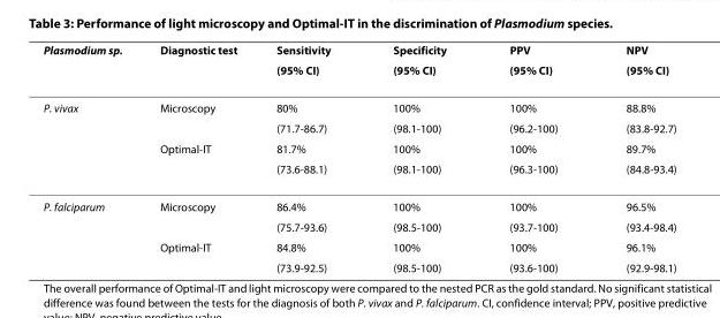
<table><thead><tr><td rowspan="2">Plasmodium sp.</td><td rowspan="2">Diagnostic test</td><td rowspan="2">Sensitivity (95% CI)</td><td rowspan="2">Specificity (95% CI)</td><td rowspan="2">PPV (95% CI)</td><td rowspan="2">NPV (95% CI)</td></tr><tr></tr></thead><tbody><tr><td rowspan="4">P. vivax</td><td>Microscopy</td><td>80%</td><td>100%</td><td>100%</td><td>88.8%</td></tr><tr><td></td><td>(71.7-86.7)</td><td>(98.1-100)</td><td>(96.2-100)</td><td>(83.8-92.7)</td></tr><tr><td>Optimal-IT</td><td>81.7%</td><td>100%</td><td>100%</td><td>89.7%</td></tr><tr><td></td><td>(73.6-88.1)</td><td>(98.1-100)</td><td>(96.3-100)</td><td>(84.8-93.4)</td></tr><tr><td rowspan="4">P. falciparum</td><td>Microscopy</td><td>86.4%</td><td>100%</td><td>100%</td><td>96.5%</td></tr><tr><td></td><td>(75.7-93.6)</td><td>(98.5-100)</td><td>(93.7-100)</td><td>(93.4-98.4)</td></tr><tr><td>Optimal-IT</td><td>84.8%</td><td>100%</td><td>100%</td><td>96.1%</td></tr><tr><td></td><td>(73.9-92.5)</td><td>(98.5-100)</td><td>(93.6-100)</td><td>(92.9-98.1)</td></tr></tbody></table>